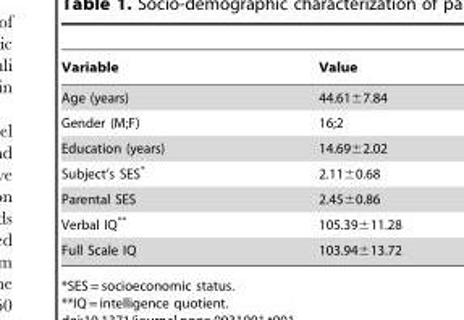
<table><thead><tr><td>Variable</td><td>Value</td></tr></thead><tbody><tr><td>Age (years)</td><td>44.61±7.84</td></tr><tr><td>Gender (M;F)</td><td>16;2</td></tr><tr><td>Education (years)</td><td>14.69±2.02</td></tr><tr><td>Subject’s SES*</td><td>2.11±0.68</td></tr><tr><td>Parental SES</td><td>2.45±0.86</td></tr><tr><td>Verbal IQ**</td><td>105.39±11.28</td></tr><tr><td>Full Scale IQ</td><td>103.94±13.72</td></tr></tbody></table>